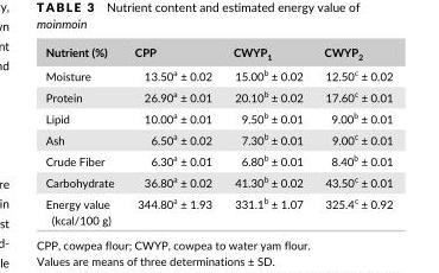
<table><thead><tr><td>Nutrient (%)</td><td>CPP</td><td>CWYP<sub>1</sub></td><td>CWYP<sub>2</sub></td></tr></thead><tbody><tr><td>Moisture</td><td>13.50<sup>a</sup> ± 0.02</td><td>15.00<sup>b</sup> ± 0.02</td><td>12.50<sup>c</sup> ± 0.02</td></tr><tr><td>Protein</td><td>26.90<sup>a</sup> ± 0.01</td><td>20.10<sup>b</sup> ± 0.02</td><td>17.60<sup>c</sup> ± 0.01</td></tr><tr><td>Lipid</td><td>10.00<sup>a</sup> ± 0.01</td><td>9.50<sup>b</sup> ± 0.01</td><td>9.00<sup>b</sup> ± 0.01</td></tr><tr><td>Ash</td><td>6.50<sup>a</sup> ± 0.02</td><td>7.30<sup>b</sup> ± 0.01</td><td>9.00<sup>c</sup> ± 0.01</td></tr><tr><td>Crude Fiber</td><td>6.30<sup>a</sup> ± 0.01</td><td>6.80<sup>b</sup> ± 0.01</td><td>8.40<sup>b</sup> ± 0.01</td></tr><tr><td>Carbohydrate</td><td>36.80<sup>a</sup> ± 0.02</td><td>41.30<sup>b</sup> ± 0.02</td><td>43.50<sup>c</sup> ± 0.01</td></tr><tr><td>Energy value (kcal/100 g)</td><td>344.80<sup>a</sup> ± 1.93</td><td>331.1<sup>b</sup> ± 1.07</td><td>325.4<sup>c</sup> ± 0.92</td></tr></tbody></table>